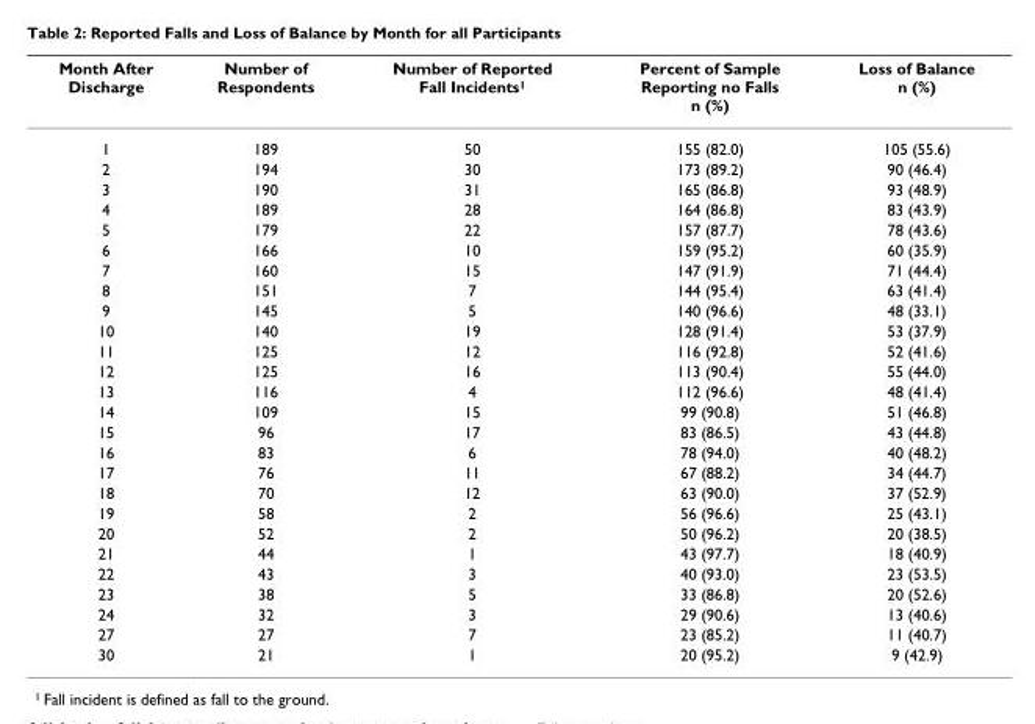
<table><thead><tr><td>Month After Discharge</td><td>Number of Respondents</td><td>Number of Reported Fall Incidents<sup>1</sup></td><td>Percent of Sample Reporting no Falls n (%)</td><td>Loss of Balance n (%)</td></tr></thead><tbody><tr><td>1</td><td>189</td><td>50</td><td>155 (82.0)</td><td>105 (55.6)</td></tr><tr><td>2</td><td>194</td><td>30</td><td>173 (89.2)</td><td>90 (46.4)</td></tr><tr><td>3</td><td>190</td><td>31</td><td>165 (86.8)</td><td>93 (48.9)</td></tr><tr><td>4</td><td>189</td><td>28</td><td>164 (86.8)</td><td>83 (43.9)</td></tr><tr><td>5</td><td>179</td><td>22</td><td>157 (87.7)</td><td>78 (43.6)</td></tr><tr><td>6</td><td>166</td><td>10</td><td>159 (95.2)</td><td>60 (35.9)</td></tr><tr><td>7</td><td>160</td><td>15</td><td>147 (91.9)</td><td>71 (44.4)</td></tr><tr><td>8</td><td>151</td><td>7</td><td>144 (95.4)</td><td>63 (41.4)</td></tr><tr><td>9</td><td>145</td><td>5</td><td>140 (96.6)</td><td>48 (33.1)</td></tr><tr><td>10</td><td>140</td><td>19</td><td>128 (91.4)</td><td>53 (37.9)</td></tr><tr><td>11</td><td>125</td><td>12</td><td>116 (92.8)</td><td>52 (41.6)</td></tr><tr><td>12</td><td>125</td><td>16</td><td>113 (90.4)</td><td>55 (44.0)</td></tr><tr><td>13</td><td>116</td><td>4</td><td>112 (96.6)</td><td>48 (41.4)</td></tr><tr><td>14</td><td>109</td><td>15</td><td>99 (90.8)</td><td>51 (46.8)</td></tr><tr><td>15</td><td>96</td><td>17</td><td>83 (86.5)</td><td>43 (44.8)</td></tr><tr><td>16</td><td>83</td><td>6</td><td>78 (94.0)</td><td>40 (48.2)</td></tr><tr><td>17</td><td>76</td><td>11</td><td>67 (88.2)</td><td>34 (44.7)</td></tr><tr><td>18</td><td>70</td><td>12</td><td>63 (90.0)</td><td>37 (52.9)</td></tr><tr><td>19</td><td>58</td><td>2</td><td>56 (96.6)</td><td>25 (43.1)</td></tr><tr><td>20</td><td>52</td><td>2</td><td>50 (96.2)</td><td>20 (38.5)</td></tr><tr><td>21</td><td>44</td><td>1</td><td>43 (97.7)</td><td>18 (40.9)</td></tr><tr><td>22</td><td>43</td><td>3</td><td>40 (93.0)</td><td>23 (53.5)</td></tr><tr><td>23</td><td>38</td><td>5</td><td>33 (86.8)</td><td>20 (52.6)</td></tr><tr><td>24</td><td>32</td><td>3</td><td>29 (90.6)</td><td>13 (40.6)</td></tr><tr><td>27</td><td>27</td><td>7</td><td>23 (85.2)</td><td>11 (40.7)</td></tr><tr><td>30</td><td>21</td><td>1</td><td>20 (95.2)</td><td>9 (42.9)</td></tr></tbody></table>